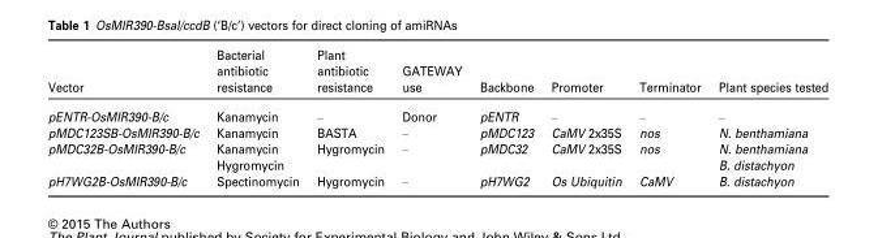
<table><thead><tr><td>Vector</td><td>Bacterial antibiotic resistance</td><td>Plant antibiotic resistance</td><td>GATEWAY use</td><td>Backbone</td><td>Promoter</td><td>Terminator</td><td>Plant species tested</td></tr></thead><tbody><tr><td>pENTR-OsMIR390-B/c</td><td>Kanamycin</td><td>–</td><td>Donor</td><td>pENTR</td><td>–</td><td>–</td><td>–</td></tr><tr><td>pMDC123SB-OsMIR390-B/c</td><td>Kanamycin</td><td>BASTA</td><td>–</td><td>pMDC123</td><td>CaMV 2x35S</td><td>nos</td><td>N. benthamiana</td></tr><tr><td>pMDC32B-OsMIR390-B/c</td><td>Kanamycin Hygromycin</td><td>Hygromycin</td><td>–</td><td>pMDC32</td><td>CaMV 2x35S</td><td>nos</td><td>N. benthamiana B. distachyon</td></tr><tr><td>pH7WG2B-OsMIR390-B/c</td><td>Spectinomycin</td><td>Hygromycin</td><td>–</td><td>pH7WG2</td><td>Os Ubiquitin</td><td>CaMV</td><td>B. distachyon</td></tr></tbody></table>